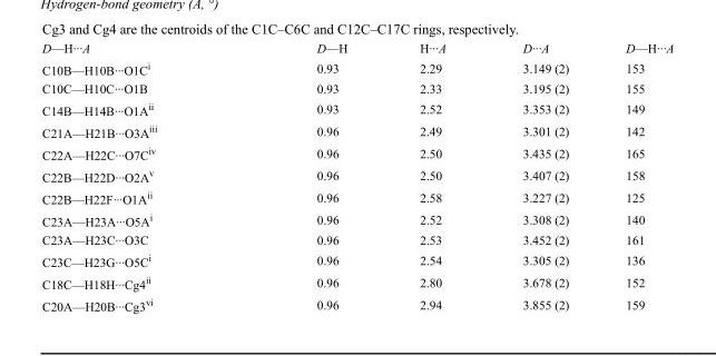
<table><tbody><tr><td>D—H···A</td><td>D—H</td><td>H···A</td><td>D···A</td><td>D—H···A</td></tr><tr><td>C10B—H10B···O1C<sup>i</sup></td><td>0.93</td><td>2.29</td><td>3.149 (2)</td><td>153</td></tr><tr><td>C10C—H10C···O1B</td><td>0.93</td><td>2.33</td><td>3.195 (2)</td><td>155</td></tr><tr><td>C14B—H14B···O1A<sup>ii</sup></td><td>0.93</td><td>2.52</td><td>3.353 (2)</td><td>149</td></tr><tr><td>C21A—H21B···O3A<sup>iii</sup></td><td>0.96</td><td>2.49</td><td>3.301 (2)</td><td>142</td></tr><tr><td>C22A—H22C···O7C<sup>iv</sup></td><td>0.96</td><td>2.50</td><td>3.435 (2)</td><td>165</td></tr><tr><td>C22B—H22D···O2A<sup>v</sup></td><td>0.96</td><td>2.50</td><td>3.407 (2)</td><td>158</td></tr><tr><td>C22B—H22F···O1A<sup>ii</sup></td><td>0.96</td><td>2.58</td><td>3.227 (2)</td><td>125</td></tr><tr><td>C23A—H23A···O5A<sup>i</sup></td><td>0.96</td><td>2.52</td><td>3.308 (2)</td><td>140</td></tr><tr><td>C23A—H23C···O3C</td><td>0.96</td><td>2.53</td><td>3.452 (2)</td><td>161</td></tr><tr><td>C23C—H23G···O5C<sup>i</sup></td><td>0.96</td><td>2.54</td><td>3.305 (2)</td><td>136</td></tr><tr><td>C18C—H18H···Cg4<sup>ii</sup></td><td>0.96</td><td>2.80</td><td>3.678 (2)</td><td>152</td></tr><tr><td>C20A—H20B···Cg3<sup>vi</sup></td><td>0.96</td><td>2.94</td><td>3.855 (2)</td><td>159</td></tr></tbody></table>